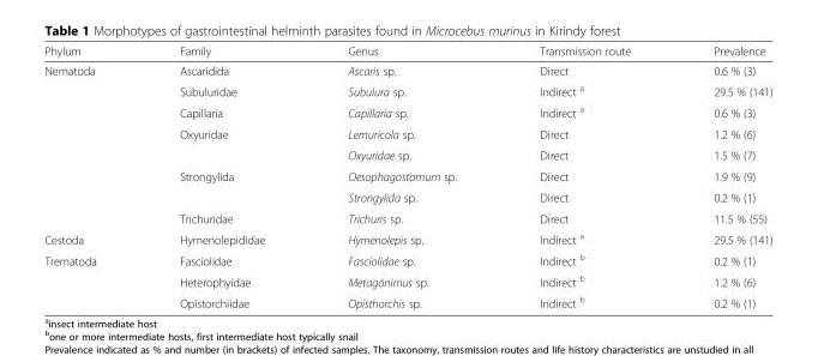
<table><thead><tr><td>Phylum</td><td>Family</td><td>Genus</td><td>Transmission route</td><td>Prevalence</td></tr></thead><tbody><tr><td rowspan="8">Nematoda</td><td>Ascaridida</td><td>Ascaris sp.</td><td>Direct</td><td>0.6 % (3)</td></tr><tr><td>Subuluridae</td><td>Subulura sp.</td><td>Indirect <sup>a</sup></td><td>29.5 % (141)</td></tr><tr><td>Capillaria</td><td>Capillaria sp.</td><td>Indirect <sup>a</sup></td><td>0.6 % (3)</td></tr><tr><td>Oxyuridae</td><td>Lemuricola sp.</td><td>Direct</td><td>1.2 % (6)</td></tr><tr><td></td><td>Oxyuridae sp.</td><td>Direct</td><td>1.5 % (7)</td></tr><tr><td>Strongylida</td><td>Oesophagostomum sp.</td><td>Direct</td><td>1.9 % (9)</td></tr><tr><td></td><td>Strongylida sp.</td><td>Direct</td><td>0.2 % (1)</td></tr><tr><td>Trichuridae</td><td>Trichuris sp.</td><td>Direct</td><td>11.5 % (55)</td></tr><tr><td>Cestoda</td><td>Hymenolepididae</td><td>Hymenolepis sp.</td><td>Indirect <sup>a</sup></td><td>29.5 % (141)</td></tr><tr><td rowspan="3">Trematoda</td><td>Fasciolidae</td><td>Fasciolidae sp.</td><td>Indirect <sup>b</sup></td><td>0.2 % (1)</td></tr><tr><td>Heterophyidae</td><td>Metagonimus sp.</td><td>Indirect <sup>b</sup></td><td>1.2 % (6)</td></tr><tr><td>Opistorchiidae</td><td>Opisthorchis sp.</td><td>Indirect <sup>b</sup></td><td>0.2 % (1)</td></tr></tbody></table>